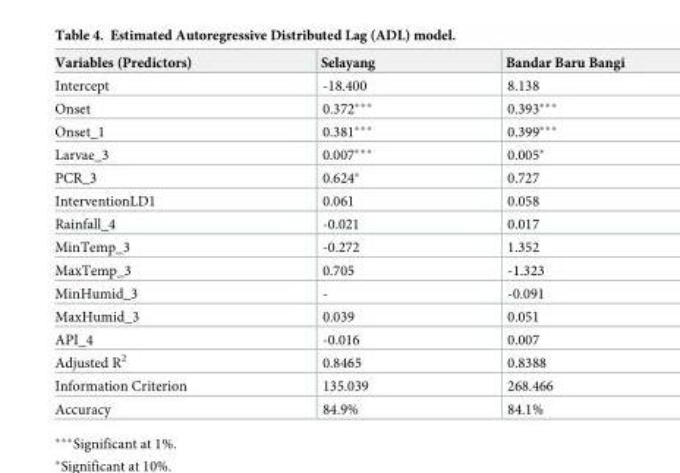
<table><thead><tr><td>Variables (Predictors)</td><td>Selayang</td><td>Bandar Baru Bangi</td></tr></thead><tbody><tr><td>Intercept</td><td>-18.400</td><td>8.138</td></tr><tr><td>Onset</td><td>0.372***</td><td>0.393***</td></tr><tr><td>Onset_1</td><td>0.381***</td><td>0.399***</td></tr><tr><td>Larvae_3</td><td>0.007***</td><td>0.005*</td></tr><tr><td>PCR_3</td><td>0.624*</td><td>0.727</td></tr><tr><td>InterventionLD1</td><td>0.061</td><td>0.058</td></tr><tr><td>Rainfall_4</td><td>-0.021</td><td>0.017</td></tr><tr><td>MinTemp_3</td><td>-0.272</td><td>1.352</td></tr><tr><td>MaxTemp_3</td><td>0.705</td><td>-1.323</td></tr><tr><td>MinHumid_3</td><td>-</td><td>-0.091</td></tr><tr><td>MaxHumid_3</td><td>0.039</td><td>0.051</td></tr><tr><td>API_4</td><td>-0.016</td><td>0.007</td></tr><tr><td>Adjusted R<sup>2</sup></td><td>0.8465</td><td>0.8388</td></tr><tr><td>Information Criterion</td><td>135.039</td><td>268.466</td></tr><tr><td>Accuracy</td><td>84.9%</td><td>84.1%</td></tr></tbody></table>